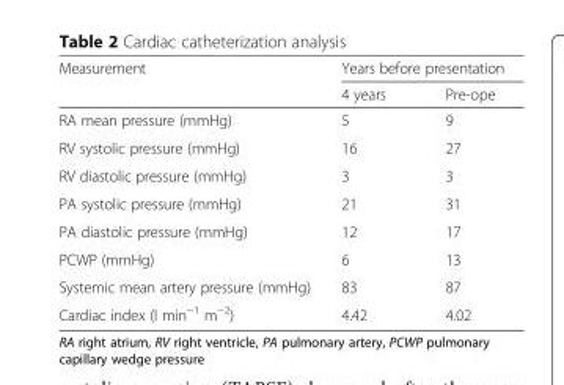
<table><thead><tr><td rowspan="2">Measurement</td><td colspan="2">Years before presentation</td></tr><tr><td>4 years</td><td>Pre-ope</td></tr></thead><tbody><tr><td>RA mean pressure (mmHg)</td><td>5</td><td>9</td></tr><tr><td>RV systolic pressure (mmHg)</td><td>16</td><td>27</td></tr><tr><td>RV diastolic pressure (mmHg)</td><td>3</td><td>3</td></tr><tr><td>PA systolic pressure (mmHg)</td><td>21</td><td>31</td></tr><tr><td>PA diastolic pressure (mmHg)</td><td>12</td><td>17</td></tr><tr><td>PCWP (mmHg)</td><td>6</td><td>13</td></tr><tr><td>Systemic mean artery pressure (mmHg)</td><td>83</td><td>87</td></tr><tr><td>Cardiac index (l min<sup>−1</sup> m<sup>−2</sup>)</td><td>4.42</td><td>4.02</td></tr></tbody></table>